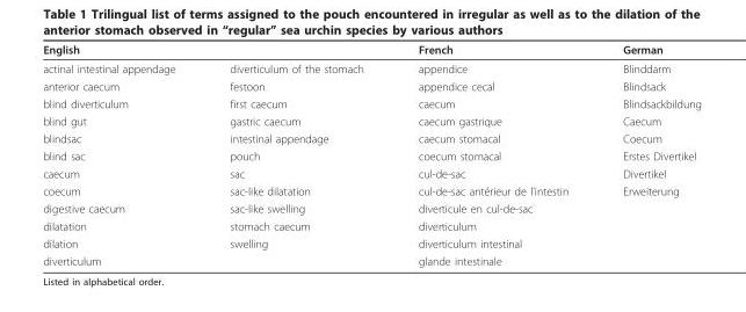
<table><thead><tr><td>English</td><td></td><td>French</td><td>German</td></tr></thead><tbody><tr><td>actinal intestinal appendage</td><td>diverticulum of the stomach</td><td>appendice</td><td>Blinddarm</td></tr><tr><td>anterior caecum</td><td>festoon</td><td>appendice cecal</td><td>Blindsack</td></tr><tr><td>blind diverticulum</td><td>first caecum</td><td>caecum</td><td>Blindsackbildung</td></tr><tr><td>blind gut</td><td>gastric caecum</td><td>caecum gastrique</td><td>Caecum</td></tr><tr><td>blindsac</td><td>intestinal appendage</td><td>caecum stomacal</td><td>Coecum</td></tr><tr><td>blind sac</td><td>pouch</td><td>coecum stomacal</td><td>Erstes Divertikel</td></tr><tr><td>caecum</td><td>sac</td><td>cul-de-sac</td><td>Divertikel</td></tr><tr><td>coecum</td><td>sac-like dilatation</td><td>cul-de-sac antérieur de l’intestin</td><td>Erweiterung</td></tr><tr><td>digestive caecum</td><td>sac-like swelling</td><td>diverticule en cul-de-sac</td><td></td></tr><tr><td>dilatation</td><td>stomach caecum</td><td>diverticulum</td><td></td></tr><tr><td>dilation</td><td>swelling</td><td>diverticulum intestinal</td><td></td></tr><tr><td>diverticulum</td><td></td><td>glande intestinale</td><td></td></tr></tbody></table>